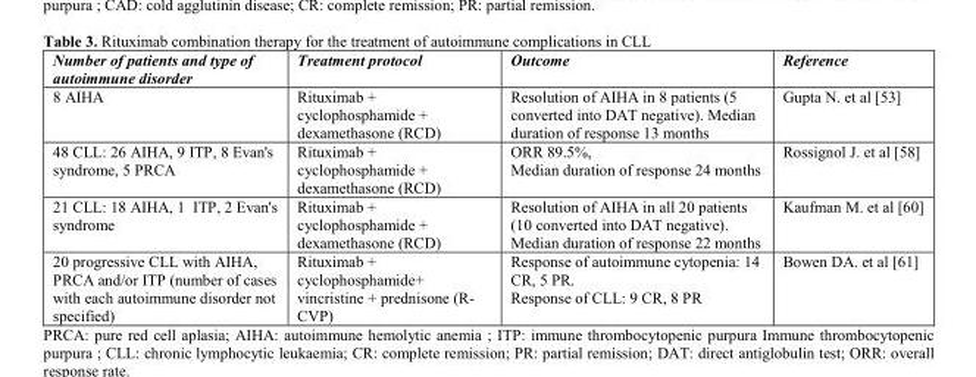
<table><thead><tr><td>Number of patients and type of autoimmune disorder</td><td>Treatment protocol</td><td>Outcome</td><td>Reference</td></tr></thead><tbody><tr><td>8 AIHA</td><td>Rituximab + cyclophosphamide + dexamethasone (RCD)</td><td>Resolution of AIHA in 8 patients (5 converted into DAT negative). Median duration of response 13 months</td><td>Gupta N. et al [53]</td></tr><tr><td>48 CLL: 26 AIHA, 9 ITP, 8 Evan&#x27;s syndrome, 5 PRCA</td><td>Rituximab + cyclophosphamide + dexamethasone (RCD)</td><td>ORR 89.5%, Median duration of response 24 months</td><td>Rossignol J. et al [58]</td></tr><tr><td>21 CLL: 18 AIHA, 1 ITP, 2 Evan&#x27;s syndrome</td><td>Rituximab + cyclophosphamide + dexamethasone (RCD)</td><td>Resolution of AIHA in all 20 patients (10 converted into DAT negative). Median duration of response 22 months</td><td>Kaufman M. et al [60]</td></tr><tr><td>20 progressive CLL with AIHA, PRCA and/or ITP (number of cases with each autoimmune disorder not specified)</td><td>Rituximab + cyclophosphamide+ vincristine + prednisone (R- CVP)</td><td>Response of autoimmune cytopenia: 14 CR, 5 PR. Response of CLL: 9 CR, 8 PR</td><td>Bowen DA. et al [61]</td></tr></tbody></table>